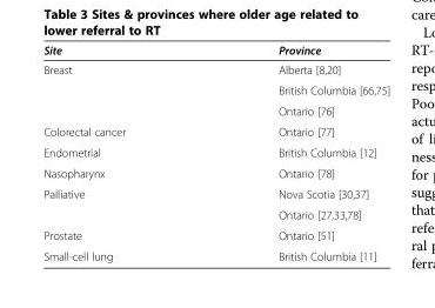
<table><thead><tr><td>Site</td><td>Province</td></tr></thead><tbody><tr><td rowspan="3">Breast</td><td>Alberta [8,20]</td></tr><tr><td>British Columbia [66,75]</td></tr><tr><td>Ontario [76]</td></tr><tr><td>Colorectal cancer</td><td>Ontario [77]</td></tr><tr><td>Endometrial</td><td>British Columbia [12]</td></tr><tr><td>Nasopharynx</td><td>Ontario [78]</td></tr><tr><td rowspan="2">Palliative</td><td>Nova Scotia [30,37]</td></tr><tr><td>Ontario [27,33,78]</td></tr><tr><td>Prostate</td><td>Ontario [51]</td></tr><tr><td>Small-cell lung</td><td>British Columbia [11]</td></tr></tbody></table>